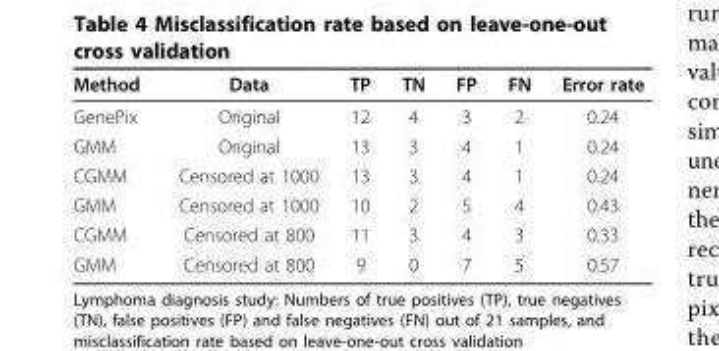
<table><thead><tr><td>Method</td><td>Data</td><td>TP</td><td>TN</td><td>FP</td><td>FN</td><td>Error rate</td></tr></thead><tbody><tr><td>GenePix</td><td>Original</td><td>12</td><td>4</td><td>3</td><td>2</td><td>0.24</td></tr><tr><td>GMM</td><td>Original</td><td>13</td><td>3</td><td>4</td><td>1</td><td>0.24</td></tr><tr><td>CGMM</td><td>Censored at 1000</td><td>13</td><td>3</td><td>4</td><td>1</td><td>0.24</td></tr><tr><td>GMM</td><td>Censored at 1000</td><td>10</td><td>2</td><td>5</td><td>4</td><td>0.43</td></tr><tr><td>CGMM</td><td>Censored at 800</td><td>11</td><td>3</td><td>4</td><td>3</td><td>0.33</td></tr><tr><td>GMM</td><td>Censored at 800</td><td>9</td><td>0</td><td>7</td><td>5</td><td>0.57</td></tr></tbody></table>